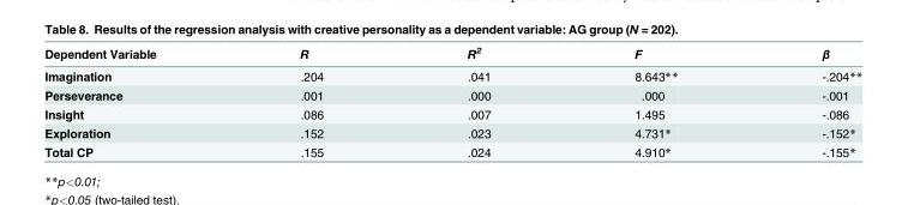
<table><thead><tr><td>Dependent Variable</td><td>R</td><td>R<sup>2</sup></td><td>F</td><td>β</td></tr></thead><tbody><tr><td>Imagination</td><td>.204</td><td>.041</td><td>8.643**</td><td>-.204**</td></tr><tr><td>Perseverance</td><td>.001</td><td>.000</td><td>.000</td><td>-.001</td></tr><tr><td>Insight</td><td>.086</td><td>.007</td><td>1.495</td><td>-.086</td></tr><tr><td>Exploration</td><td>.152</td><td>.023</td><td>4.731*</td><td>-.152*</td></tr><tr><td>Total CP</td><td>.155</td><td>.024</td><td>4.910*</td><td>-.155*</td></tr></tbody></table>